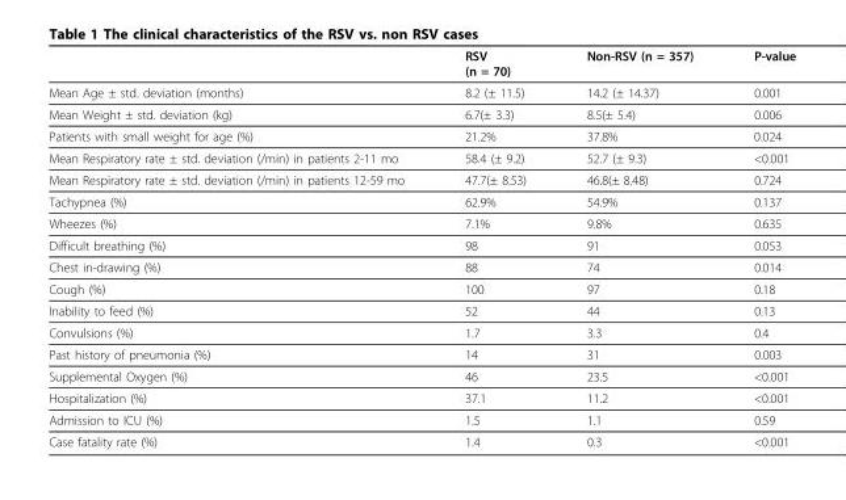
<table><thead><tr><td></td><td>RSV (n = 70)</td><td>Non-RSV (n = 357)</td><td>P-value</td></tr></thead><tbody><tr><td>Mean Age ± std. deviation (months)</td><td>8.2 (± 11.5)</td><td>14.2 (± 14.37)</td><td>0.001</td></tr><tr><td>Mean Weight ± std. deviation (kg)</td><td>6.7(± 3.3)</td><td>8.5(± 5.4)</td><td>0.006</td></tr><tr><td>Patients with small weight for age (%)</td><td>21.2%</td><td>37.8%</td><td>0.024</td></tr><tr><td>Mean Respiratory rate ± std. deviation (/min) in patients 2-11 mo</td><td>58.4 (± 9.2)</td><td>52.7 (± 9.3)</td><td>&lt;0.001</td></tr><tr><td>Mean Respiratory rate ± std. deviation (/min) in patients 12-59 mo</td><td>47.7(± 8.53)</td><td>46.8(± 8.48)</td><td>0.724</td></tr><tr><td>Tachypnea (%)</td><td>62.9%</td><td>54.9%</td><td>0.137</td></tr><tr><td>Wheezes (%)</td><td>7.1%</td><td>9.8%</td><td>0.635</td></tr><tr><td>Difficult breathing (%)</td><td>98</td><td>91</td><td>0.053</td></tr><tr><td>Chest in-drawing (%)</td><td>88</td><td>74</td><td>0.014</td></tr><tr><td>Cough (%)</td><td>100</td><td>97</td><td>0.18</td></tr><tr><td>Inability to feed (%)</td><td>52</td><td>44</td><td>0.13</td></tr><tr><td>Convulsions (%)</td><td>1.7</td><td>3.3</td><td>0.4</td></tr><tr><td>Past history of pneumonia (%)</td><td>14</td><td>31</td><td>0.003</td></tr><tr><td>Supplemental Oxygen (%)</td><td>46</td><td>23.5</td><td>&lt;0.001</td></tr><tr><td>Hospitalization (%)</td><td>37.1</td><td>11.2</td><td>&lt;0.001</td></tr><tr><td>Admission to ICU (%)</td><td>1.5</td><td>1.1</td><td>0.59</td></tr><tr><td>Case fatality rate (%)</td><td>1.4</td><td>0.3</td><td>&lt;0.001</td></tr></tbody></table>